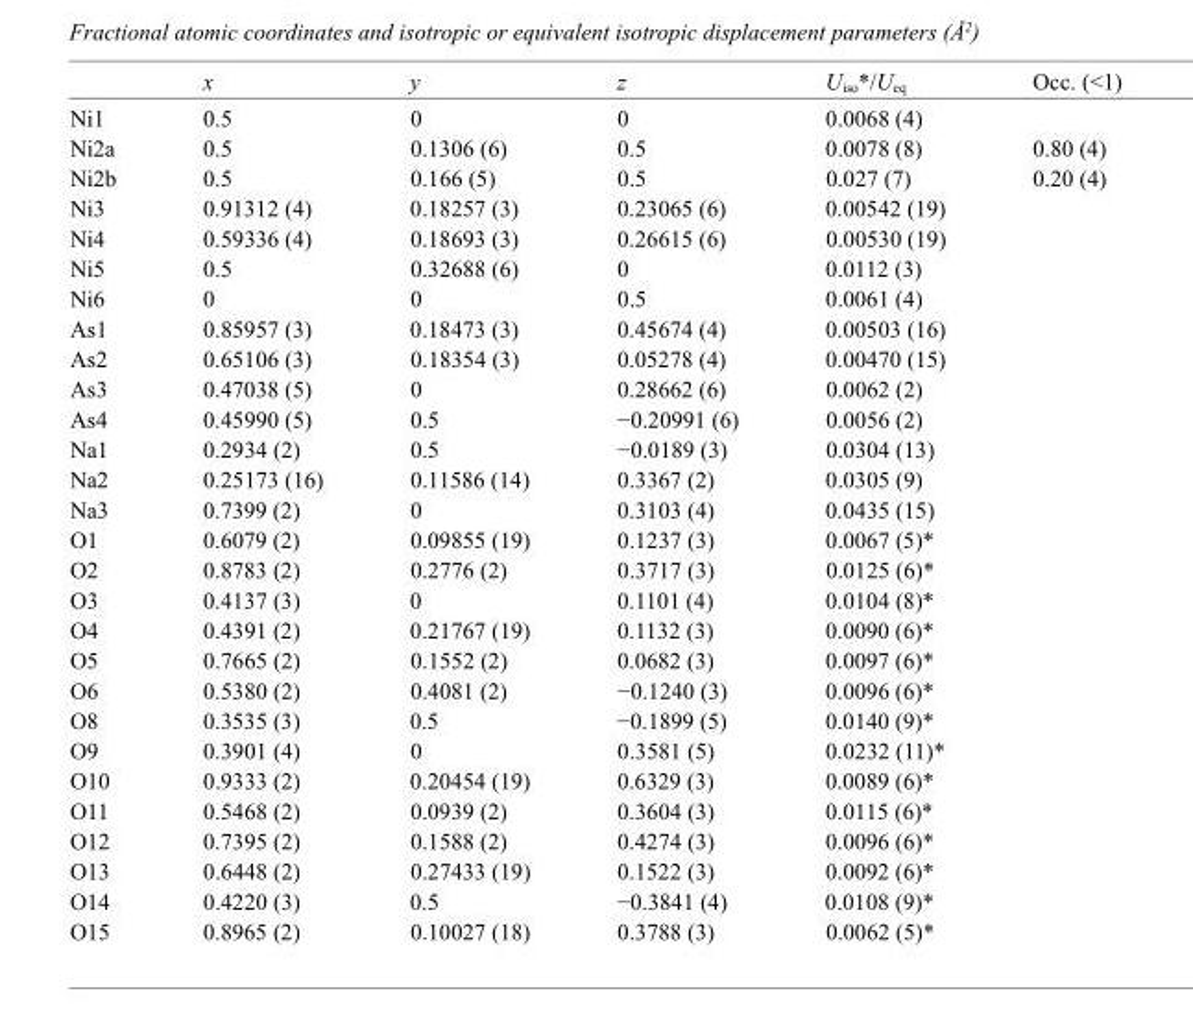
<table><thead><tr><td></td><td>x</td><td>y</td><td>z</td><td>U<sub>iso</sub>*/U<sub>eq</sub></td><td>Occ. (&lt;1)</td></tr></thead><tbody><tr><td>Ni1</td><td>0.5</td><td>0</td><td>0</td><td>0.0068 (4)</td><td></td></tr><tr><td>Ni2a</td><td>0.5</td><td>0.1306 (6)</td><td>0.5</td><td>0.0078 (8)</td><td>0.80 (4)</td></tr><tr><td>Ni2b</td><td>0.5</td><td>0.166 (5)</td><td>0.5</td><td>0.027 (7)</td><td>0.20 (4)</td></tr><tr><td>Ni3</td><td>0.91312 (4)</td><td>0.18257 (3)</td><td>0.23065 (6)</td><td>0.00542 (19)</td><td></td></tr><tr><td>Ni4</td><td>0.59336 (4)</td><td>0.18693 (3)</td><td>0.26615 (6)</td><td>0.00530 (19)</td><td></td></tr><tr><td>Ni5</td><td>0.5</td><td>0.32688 (6)</td><td>0</td><td>0.0112 (3)</td><td></td></tr><tr><td>Ni6</td><td>0</td><td>0</td><td>0.5</td><td>0.0061 (4)</td><td></td></tr><tr><td>As1</td><td>0.85957 (3)</td><td>0.18473 (3)</td><td>0.45674 (4)</td><td>0.00503 (16)</td><td></td></tr><tr><td>As2</td><td>0.65106 (3)</td><td>0.18354 (3)</td><td>0.05278 (4)</td><td>0.00470 (15)</td><td></td></tr><tr><td>As3</td><td>0.47038 (5)</td><td>0</td><td>0.28662 (6)</td><td>0.0062 (2)</td><td></td></tr><tr><td>As4</td><td>0.45990 (5)</td><td>0.5</td><td>−0.20991 (6)</td><td>0.0056 (2)</td><td></td></tr><tr><td>Na1</td><td>0.2934 (2)</td><td>0.5</td><td>−0.0189 (3)</td><td>0.0304 (13)</td><td></td></tr><tr><td>Na2</td><td>0.25173 (16)</td><td>0.11586 (14)</td><td>0.3367 (2)</td><td>0.0305 (9)</td><td></td></tr><tr><td>Na3</td><td>0.7399 (2)</td><td>0</td><td>0.3103 (4)</td><td>0.0435 (15)</td><td></td></tr><tr><td>O1</td><td>0.6079 (2)</td><td>0.09855 (19)</td><td>0.1237 (3)</td><td>0.0067 (5)*</td><td></td></tr><tr><td>O2</td><td>0.8783 (2)</td><td>0.2776 (2)</td><td>0.3717 (3)</td><td>0.0125 (6)*</td><td></td></tr><tr><td>O3</td><td>0.4137 (3)</td><td>0</td><td>0.1101 (4)</td><td>0.0104 (8)*</td><td></td></tr><tr><td>O4</td><td>0.4391 (2)</td><td>0.21767 (19)</td><td>0.1132 (3)</td><td>0.0090 (6)*</td><td></td></tr><tr><td>O5</td><td>0.7665 (2)</td><td>0.1552 (2)</td><td>0.0682 (3)</td><td>0.0097 (6)*</td><td></td></tr><tr><td>O6</td><td>0.5380 (2)</td><td>0.4081 (2)</td><td>−0.1240 (3)</td><td>0.0096 (6)*</td><td></td></tr><tr><td>O8</td><td>0.3535 (3)</td><td>0.5</td><td>−0.1899 (5)</td><td>0.0140 (9)*</td><td></td></tr><tr><td>O9</td><td>0.3901 (4)</td><td>0</td><td>0.3581 (5)</td><td>0.0232 (11)*</td><td></td></tr><tr><td>O10</td><td>0.9333 (2)</td><td>0.20454 (19)</td><td>0.6329 (3)</td><td>0.0089 (6)*</td><td></td></tr><tr><td>O11</td><td>0.5468 (2)</td><td>0.0939 (2)</td><td>0.3604 (3)</td><td>0.0115 (6)*</td><td></td></tr><tr><td>O12</td><td>0.7395 (2)</td><td>0.1588 (2)</td><td>0.4274 (3)</td><td>0.0096 (6)*</td><td></td></tr><tr><td>O13</td><td>0.6448 (2)</td><td>0.27433 (19)</td><td>0.1522 (3)</td><td>0.0092 (6)*</td><td></td></tr><tr><td>O14</td><td>0.4220 (3)</td><td>0.5</td><td>−0.3841 (4)</td><td>0.0108 (9)*</td><td></td></tr><tr><td>O15</td><td>0.8965 (2)</td><td>0.10027 (18)</td><td>0.3788 (3)</td><td>0.0062 (5)*</td><td></td></tr></tbody></table>